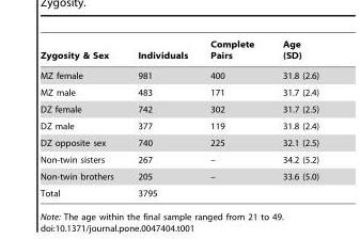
<table><thead><tr><td>Zygosity &amp; Sex</td><td>Individuals</td><td>Complete Pairs</td><td>Age (SD)</td></tr></thead><tbody><tr><td>MZ female</td><td>981</td><td>400</td><td>31.8 (2.6)</td></tr><tr><td>MZ male</td><td>483</td><td>171</td><td>31.7 (2.4)</td></tr><tr><td>DZ female</td><td>742</td><td>302</td><td>31.7 (2.5)</td></tr><tr><td>DZ male</td><td>377</td><td>119</td><td>31.8 (2.4)</td></tr><tr><td>DZ opposite sex</td><td>740</td><td>225</td><td>32.1 (2.5)</td></tr><tr><td>Non-twin sisters</td><td>267</td><td>–</td><td>34.2 (5.2)</td></tr><tr><td>Non-twin brothers</td><td>205</td><td>–</td><td>33.6 (5.0)</td></tr><tr><td>Total</td><td>3795</td><td></td><td></td></tr></tbody></table>